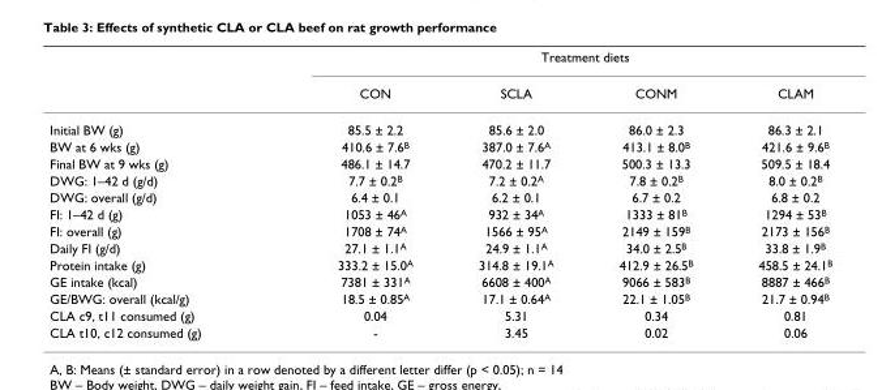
<table><thead><tr><td rowspan="2"></td><td colspan="4">Treatment diets</td></tr><tr><td>CON</td><td>SCLA</td><td>CONM</td><td>CLAM</td></tr></thead><tbody><tr><td>Initial BW (g)</td><td>85.5 ± 2.2</td><td>85.6 ± 2.0</td><td>86.0 ± 2.3</td><td>86.3 ± 2.1</td></tr><tr><td>BW at 6 wks (g)</td><td>410.6 ± 7.6<sup>B</sup></td><td>387.0 ± 7.6<sup>A</sup></td><td>413.1 ± 8.0<sup>B</sup></td><td>421.6 ± 9.6<sup>B</sup></td></tr><tr><td>Final BW at 9 wks (g)</td><td>486.1 ± 14.7</td><td>470.2 ± 11.7</td><td>500.3 ± 13.3</td><td>509.5 ± 18.4</td></tr><tr><td>DWG: 1–42 d (g/d)</td><td>7.7 ± 0.2<sup>B</sup></td><td>7.2 ± 0.2<sup>A</sup></td><td>7.8 ± 0.2<sup>B</sup></td><td>8.0 ± 0.2<sup>B</sup></td></tr><tr><td>DWG: overall (g/d)</td><td>6.4 ± 0.1</td><td>6.2 ± 0.1</td><td>6.7 ± 0.2</td><td>6.8 ± 0.2</td></tr><tr><td>FI: 1–42 d (g)</td><td>1053 ± 46<sup>A</sup></td><td>932 ± 34<sup>A</sup></td><td>1333 ± 81<sup>B</sup></td><td>1294 ± 53<sup>B</sup></td></tr><tr><td>FI: overall (g)</td><td>1708 ± 74<sup>A</sup></td><td>1566 ± 95<sup>A</sup></td><td>2149 ± 159<sup>B</sup></td><td>2173 ± 156<sup>B</sup></td></tr><tr><td>Daily FI (g/d)</td><td>27.1 ± 1.1<sup>A</sup></td><td>24.9 ± 1.1<sup>A</sup></td><td>34.0 ± 2.5<sup>B</sup></td><td>33.8 ± 1.9<sup>B</sup></td></tr><tr><td>Protein intake (g)</td><td>333.2 ± 15.0<sup>A</sup></td><td>314.8 ± 19.1<sup>A</sup></td><td>412.9 ± 26.5<sup>B</sup></td><td>458.5 ± 24.1<sup>B</sup></td></tr><tr><td>GE intake (kcal)</td><td>7381 ± 331<sup>A</sup></td><td>6608 ± 400<sup>A</sup></td><td>9066 ± 583<sup>B</sup></td><td>8887 ± 466<sup>B</sup></td></tr><tr><td>GE/BWG: overall (kcal/g)</td><td>18.5 ± 0.85<sup>A</sup></td><td>17.1 ± 0.64<sup>A</sup></td><td>22.1 ± 1.05<sup>B</sup></td><td>21.7 ± 0.94<sup>B</sup></td></tr><tr><td>CLA c9, t11 consumed (g)</td><td>0.04</td><td>5.31</td><td>0.34</td><td>0.81</td></tr><tr><td>CLA t10, c12 consumed (g)</td><td>-</td><td>3.45</td><td>0.02</td><td>0.06</td></tr></tbody></table>